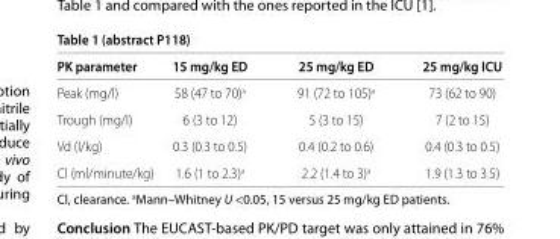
<table><thead><tr><td>PK parameter</td><td>15 mg/kg ED</td><td>25 mg/kg ED</td><td>25 mg/kg ICU</td></tr></thead><tbody><tr><td>Peak (mg/l)</td><td>58 (47 to 70)<sup>a</sup></td><td>91 (72 to 105)<sup>a</sup></td><td>73 (62 to 90)</td></tr><tr><td>Trough (mg/l)</td><td>6 (3 to 12)</td><td>5 (3 to 15)</td><td>7 (2 to 15)</td></tr><tr><td>Vd (l/kg)</td><td>0.3 (0.3 to 0.5)</td><td>0.4 (0.2 to 0.6)</td><td>0.4 (0.3 to 0.5)</td></tr><tr><td>Cl (ml/minute/kg)</td><td>1.6 (1 to 2.3)<sup>a</sup></td><td>2.2 (1.4 to 3)<sup>a</sup></td><td>1.9 (1.3 to 3.5)</td></tr></tbody></table>